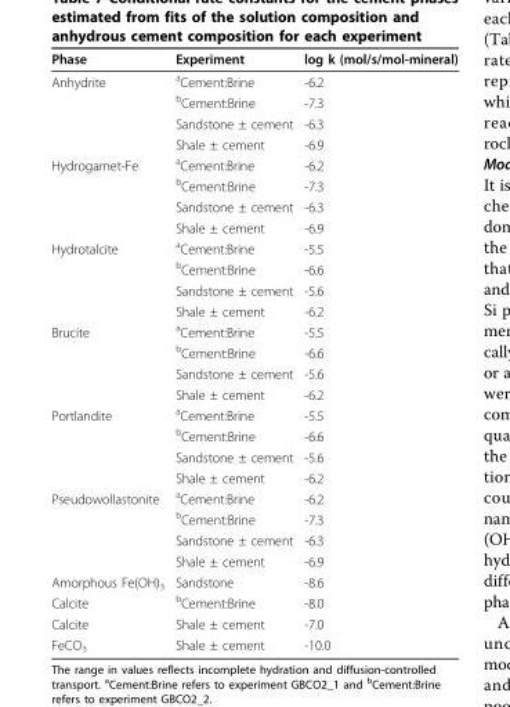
<table><thead><tr><td>Phase</td><td>Experiment</td><td>log k (mol/s/mol-mineral)</td></tr></thead><tbody><tr><td rowspan="4">Anhydrite</td><td><sup>a</sup>Cement:Brine</td><td>-6.2</td></tr><tr><td><sup>b</sup>Cement:Brine</td><td>-7.3</td></tr><tr><td>Sandstone ± cement</td><td>-6.3</td></tr><tr><td>Shale ± cement</td><td>-6.9</td></tr><tr><td rowspan="4">Hydrogarnet-Fe</td><td><sup>a</sup>Cement:Brine</td><td>-6.2</td></tr><tr><td><sup>b</sup>Cement:Brine</td><td>-7.3</td></tr><tr><td>Sandstone ± cement</td><td>-6.3</td></tr><tr><td>Shale ± cement</td><td>-6.9</td></tr><tr><td rowspan="4">Hydrotalcite</td><td><sup>a</sup>Cement:Brine</td><td>-5.5</td></tr><tr><td><sup>b</sup>Cement:Brine</td><td>-6.6</td></tr><tr><td>Sandstone ± cement</td><td>-5.6</td></tr><tr><td>Shale ± cement</td><td>-6.2</td></tr><tr><td rowspan="4">Brucite</td><td><sup>a</sup>Cement:Brine</td><td>-5.5</td></tr><tr><td><sup>b</sup>Cement:Brine</td><td>-6.6</td></tr><tr><td>Sandstone ± cement</td><td>-5.6</td></tr><tr><td>Shale ± cement</td><td>-6.2</td></tr><tr><td rowspan="4">Portlandite</td><td><sup>a</sup>Cement:Brine</td><td>-5.5</td></tr><tr><td><sup>b</sup>Cement:Brine</td><td>-6.6</td></tr><tr><td>Sandstone ± cement</td><td>-5.6</td></tr><tr><td>Shale ± cement</td><td>-6.2</td></tr><tr><td rowspan="4">Pseudowollastonite</td><td><sup>a</sup>Cement:Brine</td><td>-6.2</td></tr><tr><td><sup>b</sup>Cement:Brine</td><td>-7.3</td></tr><tr><td>Sandstone ± cement</td><td>-6.3</td></tr><tr><td>Shale ± cement</td><td>-6.9</td></tr><tr><td>Amorphous Fe(OH)<sub>3</sub></td><td>Sandstone</td><td>-8.6</td></tr><tr><td>Calcite</td><td><sup>b</sup>Cement:Brine</td><td>-8.0</td></tr><tr><td>Calcite</td><td>Shale ± cement</td><td>-7.0</td></tr><tr><td>FeCO<sub>3</sub></td><td>Shale ± cement</td><td>-10.0</td></tr></tbody></table>